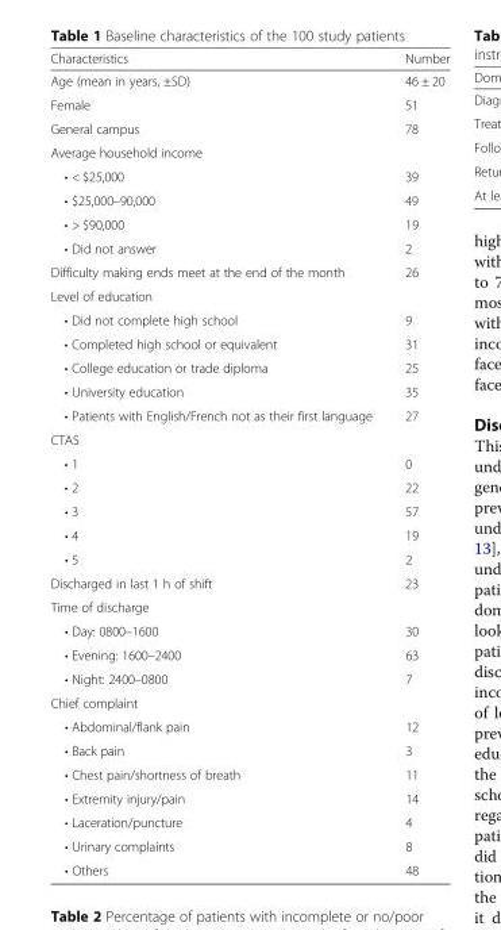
<table><thead><tr><td>Characteristics</td><td>Number</td></tr></thead><tbody><tr><td>Age (mean in years, ±SD)</td><td>46 ± 20</td></tr><tr><td>Female</td><td>51</td></tr><tr><td>General campus</td><td>78</td></tr><tr><td colspan="2">Average household income</td></tr><tr><td>• &lt; $25,000</td><td>39</td></tr><tr><td>• $25,000–90,000</td><td>49</td></tr><tr><td>• &gt; $90,000</td><td>19</td></tr><tr><td>• Did not answer</td><td>2</td></tr><tr><td>Difficulty making ends meet at the end of the month</td><td>26</td></tr><tr><td colspan="2">Level of education</td></tr><tr><td>• Did not complete high school</td><td>9</td></tr><tr><td>• Completed high school or equivalent</td><td>31</td></tr><tr><td>• College education or trade diploma</td><td>25</td></tr><tr><td>• University education</td><td>35</td></tr><tr><td>• Patients with English/French not as their first language</td><td>27</td></tr><tr><td colspan="2">CTAS</td></tr><tr><td>• 1</td><td>0</td></tr><tr><td>• 2</td><td>22</td></tr><tr><td>• 3</td><td>57</td></tr><tr><td>• 4</td><td>19</td></tr><tr><td>• 5</td><td>2</td></tr><tr><td>Discharged in last 1 h of shift</td><td>23</td></tr><tr><td colspan="2">Time of discharge</td></tr><tr><td>• Day: 0800–1600</td><td>30</td></tr><tr><td>• Evening: 1600–2400</td><td>63</td></tr><tr><td>• Night: 2400–0800</td><td>7</td></tr><tr><td colspan="2">Chief complaint</td></tr><tr><td>• Abdominal/flank pain</td><td>12</td></tr><tr><td>• Back pain</td><td>3</td></tr><tr><td>• Chest pain/shortness of breath</td><td>11</td></tr><tr><td>• Extremity injury/pain</td><td>14</td></tr><tr><td>• Laceration/puncture</td><td>4</td></tr><tr><td>• Urinary complaints</td><td>8</td></tr><tr><td>• Others</td><td>48</td></tr></tbody></table>